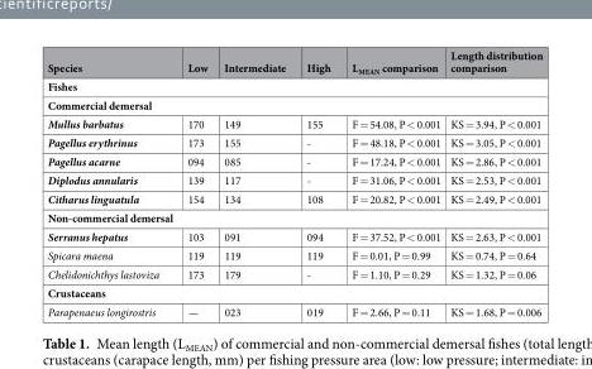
<table><thead><tr><td>Species</td><td>Low</td><td>Intermediate</td><td>High</td><td>L<sub>MEAN</sub> comparison</td><td>Length distribution comparison</td></tr></thead><tbody><tr><td colspan="6">Fishes</td></tr><tr><td colspan="6">Commercial demersal</td></tr><tr><td>Mullus barbatus</td><td>170</td><td>149</td><td>155</td><td>F = 54.08, P &lt; 0.001</td><td>KS = 3.94, P &lt; 0.001</td></tr><tr><td>Pagellus erythrinus</td><td>173</td><td>155</td><td>-</td><td>F = 48.18, P &lt; 0.001</td><td>KS = 3.05, P &lt; 0.001</td></tr><tr><td>Pagellus acarne</td><td>094</td><td>085</td><td>-</td><td>F = 17.24, P &lt; 0.001</td><td>KS = 2.86, P &lt; 0.001</td></tr><tr><td>Diplodus annularis</td><td>139</td><td>117</td><td>-</td><td>F = 31.06, P &lt; 0.001</td><td>KS = 2.53, P &lt; 0.001</td></tr><tr><td>Citharus linguatula</td><td>154</td><td>134</td><td>108</td><td>F = 20.82, P &lt; 0.001</td><td>KS = 2.49, P &lt; 0.001</td></tr><tr><td colspan="6">Non-commercial demersal</td></tr><tr><td>Serranus hepatus</td><td>103</td><td>091</td><td>094</td><td>F = 37.52, P &lt; 0.001</td><td>KS = 2.63, P &lt; 0.001</td></tr><tr><td>Spicara maena</td><td>119</td><td>119</td><td>119</td><td>F = 0.01, P = 0.99</td><td>KS = 0.74, P = 0.64</td></tr><tr><td>Chelidonichthys lastoviza</td><td>173</td><td>179</td><td>-</td><td>F = 1.10, P = 0.29</td><td>KS = 1.32, P = 0.06</td></tr><tr><td colspan="6">Crustaceans</td></tr><tr><td>Parapenaeus longirostris</td><td>—</td><td>023</td><td>019</td><td>F = 2.66, P = 0.11</td><td>KS = 1.68, P = 0.006</td></tr></tbody></table>